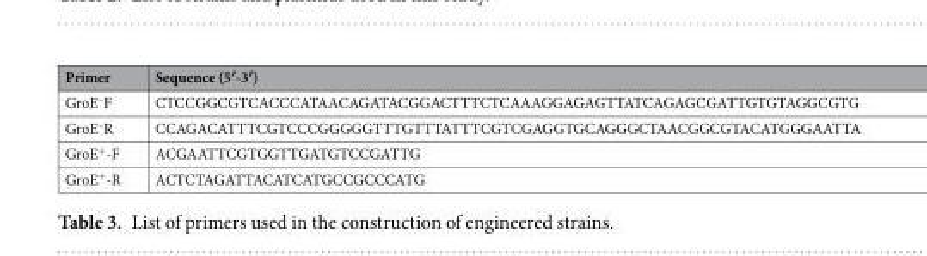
<table><thead><tr><td>Primer</td><td>Sequence (5′-3′)</td></tr></thead><tbody><tr><td>GroE<sup>–</sup>F</td><td>CTCCGGCGTCACCCATAACAGATACGGACTTTCTCAAAGGAGAGTTATCAGAGCGATTGTGTAGGCGTG</td></tr><tr><td>GroE<sup>–</sup>R</td><td>CCAGACATTTCGTCCCGGGGGTTTGTTTATTTCGTCGAGGTGCAGGGCTAACGGCGTACATGGGAATTA</td></tr><tr><td>GroE<sup>+</sup>-F</td><td>ACGAATTCGTGGTTGATGTCCGATTG</td></tr><tr><td>GroE<sup>+</sup>-R</td><td>ACTCTAGATTACATCATGCCGCCCATG</td></tr></tbody></table>